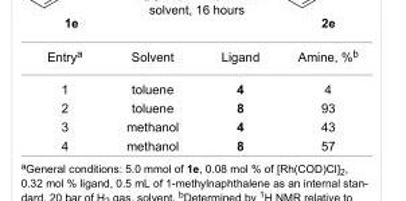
<table><tbody><tr><td>Entry<sup>a</sup></td><td>Solvent</td><td>Ligand</td><td>Amine, %<sup>b</sup></td></tr><tr><td>1</td><td>toluene</td><td>4</td><td>4</td></tr><tr><td>2</td><td>toluene</td><td>8</td><td>93</td></tr><tr><td>3</td><td>methanol</td><td>4</td><td>43</td></tr><tr><td>4</td><td>methanol</td><td>8</td><td>57</td></tr></tbody></table>